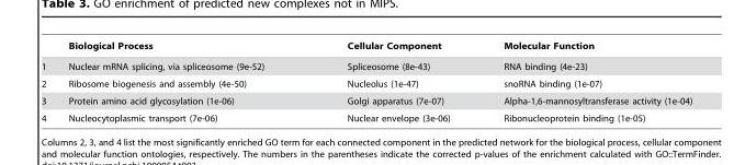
<table><thead><tr><td></td><td>Biological Process</td><td>Cellular Component</td><td>Molecular Function</td></tr></thead><tbody><tr><td>1</td><td>Nuclear mRNA splicing, via spliceosome (9e-52)</td><td>Spliceosome (8e-43)</td><td>RNA binding (4e-23)</td></tr><tr><td>2</td><td>Ribosome biogenesis and assembly (4e-50)</td><td>Nucleolus (1e-47)</td><td>snoRNA binding (1e-07)</td></tr><tr><td>3</td><td>Protein amino acid glycosylation (1e-06)</td><td>Golgi apparatus (7e-07)</td><td>Alpha-1,6-mannosyltransferase activity (1e-04)</td></tr><tr><td>4</td><td>Nucleocytoplasmic transport (7e-06)</td><td>Nuclear envelope (3e-06)</td><td>Ribonucleoprotein binding (1e-05)</td></tr></tbody></table>